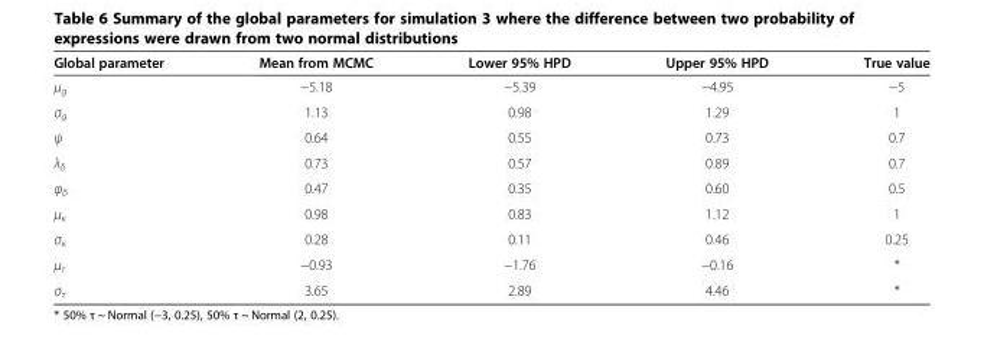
<table><thead><tr><td>Global parameter</td><td>Mean from MCMC</td><td>Lower 95% HPD</td><td>Upper 95% HPD</td><td>True value</td></tr></thead><tbody><tr><td>μ<sub>g</sub></td><td>−5.18</td><td>−5.39</td><td>−4.95</td><td>−5</td></tr><tr><td>σ<sub>g</sub></td><td>1.13</td><td>0.98</td><td>1.29</td><td>1</td></tr><tr><td>ψ</td><td>0.64</td><td>0.55</td><td>0.73</td><td>0.7</td></tr><tr><td>λ<sub>δ</sub></td><td>0.73</td><td>0.57</td><td>0.89</td><td>0.7</td></tr><tr><td>φ<sub>δ</sub></td><td>0.47</td><td>0.35</td><td>0.60</td><td>0.5</td></tr><tr><td>μ<sub>κ</sub></td><td>0.98</td><td>0.83</td><td>1.12</td><td>1</td></tr><tr><td>σ<sub>κ</sub></td><td>0.28</td><td>0.11</td><td>0.46</td><td>0.25</td></tr><tr><td>μ<sub>τ</sub></td><td>−0.93</td><td>−1.76</td><td>−0.16</td><td>*</td></tr><tr><td>σ<sub>τ</sub></td><td>3.65</td><td>2.89</td><td>4.46</td><td>*</td></tr></tbody></table>